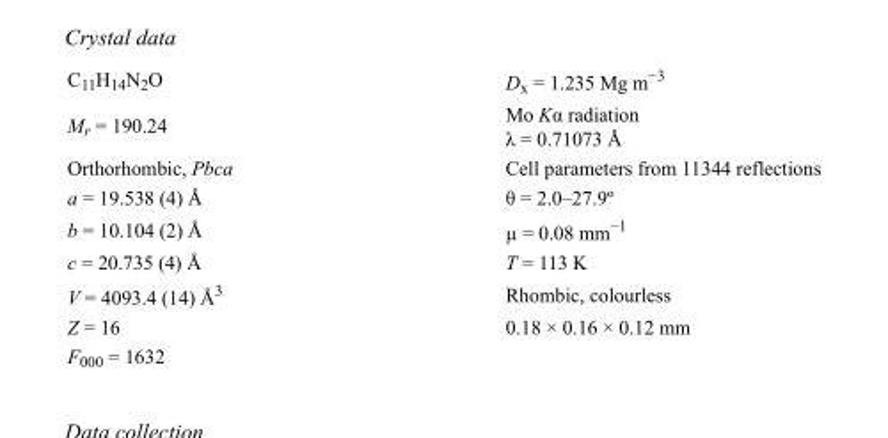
<table><tbody><tr><td>C<sub>11</sub>H<sub>14</sub>N<sub>2</sub>O</td><td>D<sub>x</sub> = 1.235 Mg m<sup>−3</sup></td></tr><tr><td>M<sub>r</sub> = 190.24</td><td>Mo Kα radiation λ = 0.71073 Å</td></tr><tr><td>Orthorhombic, Pbca</td><td>Cell parameters from 11344 reflections</td></tr><tr><td>a = 19.538 (4) Å</td><td>θ = 2.0–27.9º</td></tr><tr><td>b = 10.104 (2) Å</td><td>µ = 0.08 mm<sup>−1</sup></td></tr><tr><td>c = 20.735 (4) Å</td><td>T = 113 K</td></tr><tr><td>V = 4093.4 (14) Å<sup>3</sup></td><td>Rhombic, colourless</td></tr><tr><td>Z = 16</td><td>0.18 × 0.16 × 0.12 mm</td></tr><tr><td>F000 = 1632</td><td></td></tr></tbody></table>